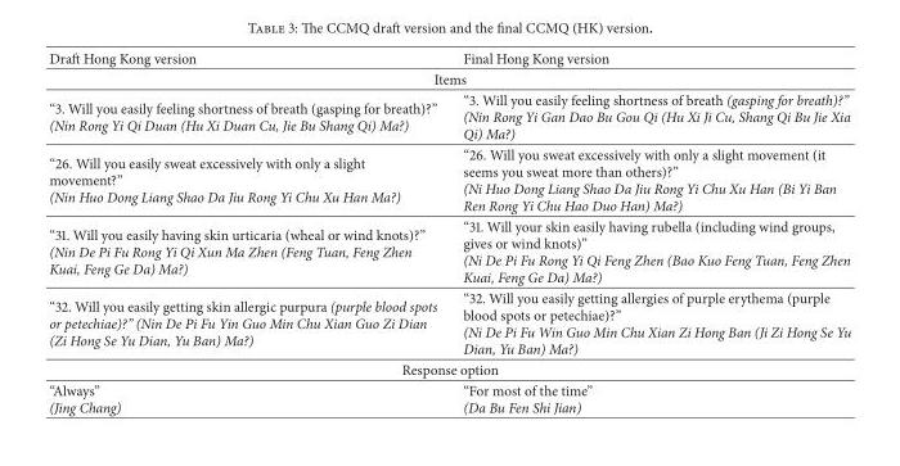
<table><thead><tr><td>Draft Hong Kong version</td><td>Final Hong Kong version</td></tr></thead><tbody><tr><td colspan="2">Items</td></tr><tr><td>“3. Will you easily feeling shortness of breath (gasping for breath)?” (Nin Rong Yi Qi Duan (Hu Xi Duan Cu, Jie Bu Shang Qi) Ma?)</td><td>“3. Will you easily feeling shortness of breath (gasping for breath)?” (Nin Rong Yi Gan Dao Bu Gou Qi (Hu Xi Ji Cu, Shang Qi Bu Jie Xia Qi) Ma?)</td></tr><tr><td>“26. Will you easily sweat excessively with only a slight movement?” (Nin Huo Dong Liang Shao Da Jiu Rong Yi Chu Xu Han Ma?)</td><td>“26. Will you sweat excessively with only a slight movement (it seems you sweat more than others)?” (Ni Huo Dong Liang Shao Da Jiu Rong Yi Chu Xu Han (Bi Yi Ban Ren Rong Yi Chu Hao Duo Han) Ma?)</td></tr><tr><td>“31. Will you easily having skin urticaria (wheal or wind knots)?” (Nin De Pi Fu Rong Yi Qi Xun Ma Zhen (Feng Tuan, Feng Zhen Kuai, Feng Ge Da) Ma?)</td><td>“31. Will your skin easily having rubella (including wind groups, gives or wind knots)” (Ni De Pi Fu Rong Yi Qi Feng Zhen (Bao Kuo Feng Tuan, Feng Zhen Kuai, Feng Ge Da) Ma?)</td></tr><tr><td>“32. Will you easily getting skin allergic purpura (purple blood spots or petechiae)?” (Nin De Pi Fu Yin Guo Min Chu Xian Guo Zi Dian (Zi Hong Se Yu Dian, Yu Ban) Ma?)</td><td>“32. Will you easily getting allergies of purple erythema (purple blood spots or petechiae)?” (Ni De Pi Fu Win Guo Min Chu Xian Zi Hong Ban (Ji Zi Hong Se Yu Dian, Yu Ban) Ma?)</td></tr><tr><td colspan="2">Response option</td></tr><tr><td>“Always” (Jing Chang)</td><td>“For most of the time” (Da Bu Fen Shi Jian)</td></tr></tbody></table>